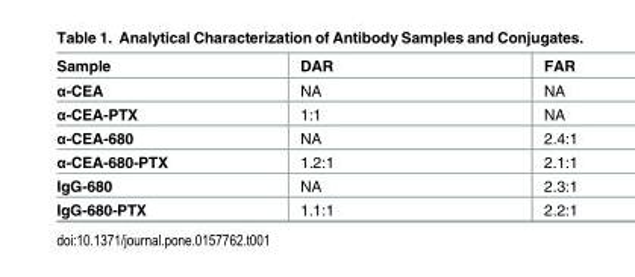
<table><thead><tr><td>Sample</td><td>DAR</td><td>FAR</td></tr></thead><tbody><tr><td>α-CEA</td><td>NA</td><td>NA</td></tr><tr><td>α-CEA-PTX</td><td>1:1</td><td>NA</td></tr><tr><td>α-CEA-680</td><td>NA</td><td>2.4:1</td></tr><tr><td>α-CEA-680-PTX</td><td>1.2:1</td><td>2.1:1</td></tr><tr><td>IgG-680</td><td>NA</td><td>2.3:1</td></tr><tr><td>IgG-680-PTX</td><td>1.1:1</td><td>2.2:1</td></tr></tbody></table>